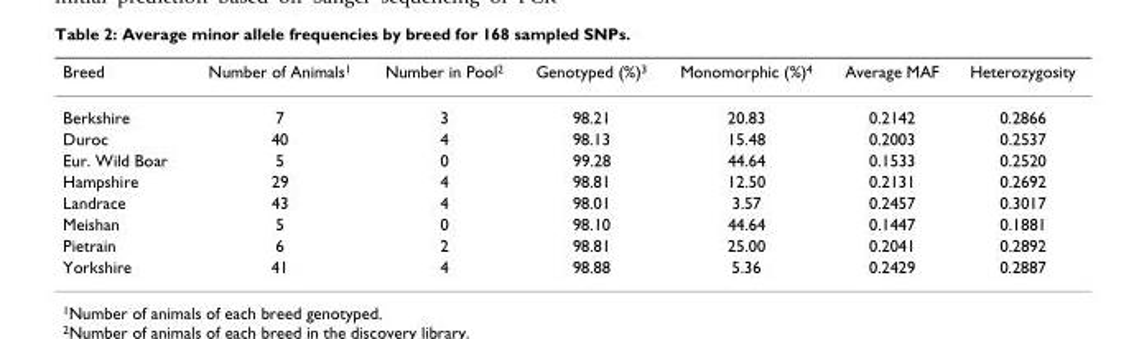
<table><thead><tr><td>Breed</td><td>Number of Animals<sup>1</sup></td><td>Number in Pool<sup>2</sup></td><td>Genotyped (%)<sup>3</sup></td><td>Monomorphic (%)<sup>4</sup></td><td>Average MAF</td><td>Heterozygosity</td></tr></thead><tbody><tr><td>Berkshire</td><td>7</td><td>3</td><td>98.21</td><td>20.83</td><td>0.2142</td><td>0.2866</td></tr><tr><td>Duroc</td><td>40</td><td>4</td><td>98.13</td><td>15.48</td><td>0.2003</td><td>0.2537</td></tr><tr><td>Eur. Wild Boar</td><td>5</td><td>0</td><td>99.28</td><td>44.64</td><td>0.1533</td><td>0.2520</td></tr><tr><td>Hampshire</td><td>29</td><td>4</td><td>98.81</td><td>12.50</td><td>0.2131</td><td>0.2692</td></tr><tr><td>Landrace</td><td>43</td><td>4</td><td>98.01</td><td>3.57</td><td>0.2457</td><td>0.3017</td></tr><tr><td>Meishan</td><td>5</td><td>0</td><td>98.10</td><td>44.64</td><td>0.1447</td><td>0.1881</td></tr><tr><td>Pietrain</td><td>6</td><td>2</td><td>98.81</td><td>25.00</td><td>0.2041</td><td>0.2892</td></tr><tr><td>Yorkshire</td><td>41</td><td>4</td><td>98.88</td><td>5.36</td><td>0.2429</td><td>0.2887</td></tr></tbody></table>